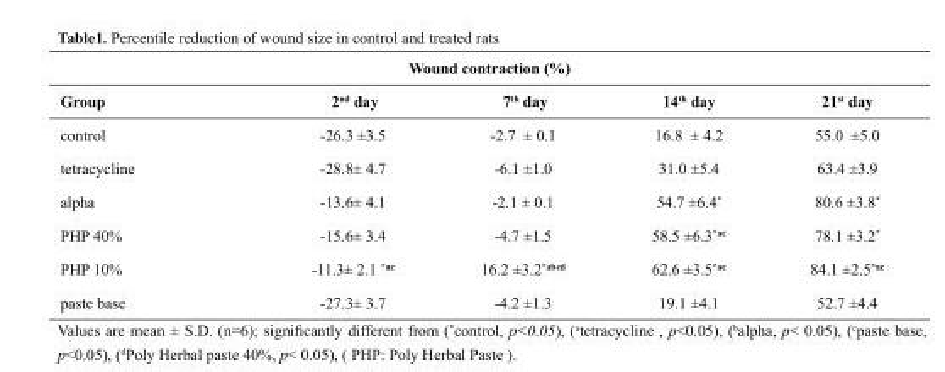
<table><thead><tr><td colspan="5">Wound contraction (%)</td></tr><tr><td>Group</td><td>2<sup>nd</sup> day</td><td>7<sup>th</sup> day</td><td>14<sup>th</sup> day</td><td>21<sup>st</sup> day</td></tr></thead><tbody><tr><td>control</td><td>-26.3 ±3.5</td><td>-2.7 ± 0.1</td><td>16.8 ± 4.2</td><td>55.0 ±5.0</td></tr><tr><td>tetracycline</td><td>-28.8± 4.7</td><td>-6.1 ±1.0</td><td>31.0 ±5.4</td><td>63.4 ±3.9</td></tr><tr><td>alpha</td><td>-13.6± 4.1</td><td>-2.1 ± 0.1</td><td>54.7 ±6.4*</td><td>80.6 ±3.8*</td></tr><tr><td>PHP 40%</td><td>-15.6± 3.4</td><td>-4.7 ±1.5</td><td>58.5 ±6.3*<sup>ac</sup></td><td>78.1 ±3.2*</td></tr><tr><td>PHP 10%</td><td>-11.3± 2.1 *<sup>ac</sup></td><td>16.2 ±3.2*<sup>abcd</sup></td><td>62.6 ±3.5*<sup>ac</sup></td><td>84.1 ±2.5*<sup>ac</sup></td></tr><tr><td>paste base</td><td>-27.3± 3.7</td><td>-4.2 ±1.3</td><td>19.1 ±4.1</td><td>52.7 ±4.4</td></tr></tbody></table>